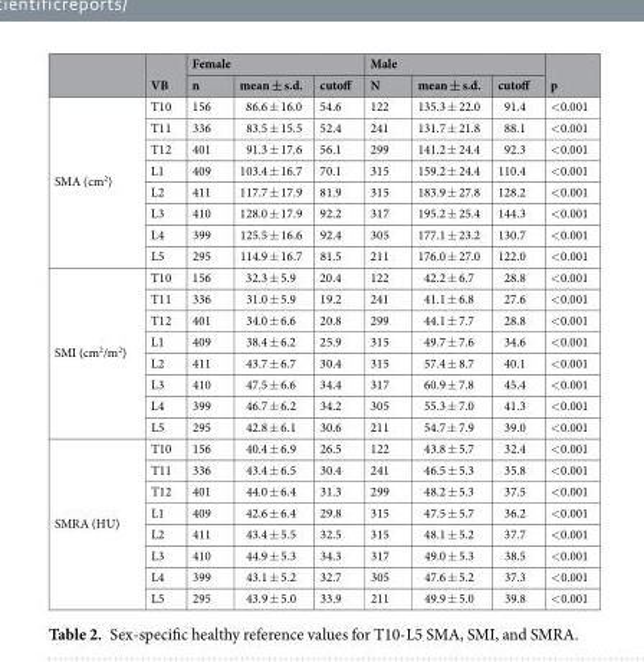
<table><thead><tr><td rowspan="2"></td><td rowspan="2">VB</td><td colspan="3">Female</td><td colspan="3">Male</td><td rowspan="2">p</td></tr><tr><td>n</td><td>mean ± s.d.</td><td>cutoff</td><td>N</td><td>mean ± s.d.</td><td>cutoff</td></tr></thead><tbody><tr><td rowspan="8">SMA (cm<sup>2</sup>)</td><td>T10</td><td>156</td><td>86.6 ± 16.0</td><td>54.6</td><td>122</td><td>135.3 ± 22.0</td><td>91.4</td><td>&lt;0.001</td></tr><tr><td>T11</td><td>336</td><td>83.5 ± 15.5</td><td>52.4</td><td>241</td><td>131.7 ± 21.8</td><td>88.1</td><td>&lt;0.001</td></tr><tr><td>T12</td><td>401</td><td>91.3 ± 17.6</td><td>56.1</td><td>299</td><td>141.2 ± 24.4</td><td>92.3</td><td>&lt;0.001</td></tr><tr><td>L1</td><td>409</td><td>103.4 ± 16.7</td><td>70.1</td><td>315</td><td>159.2 ± 24.4</td><td>110.4</td><td>&lt;0.001</td></tr><tr><td>L2</td><td>411</td><td>117.7 ± 17.9</td><td>81.9</td><td>315</td><td>183.9 ± 27.8</td><td>128.2</td><td>&lt;0.001</td></tr><tr><td>L3</td><td>410</td><td>128.0 ± 17.9</td><td>92.2</td><td>317</td><td>195.2 ± 25.4</td><td>144.3</td><td>&lt;0.001</td></tr><tr><td>L4</td><td>399</td><td>125.5 ± 16.6</td><td>92.4</td><td>305</td><td>177.1 ± 23.2</td><td>130.7</td><td>&lt;0.001</td></tr><tr><td>L5</td><td>295</td><td>114.9 ± 16.7</td><td>81.5</td><td>211</td><td>176.0 ± 27.0</td><td>122.0</td><td>&lt;0.001</td></tr><tr><td rowspan="8">SMI (cm<sup>2</sup>/m<sup>2</sup>)</td><td>T10</td><td>156</td><td>32.3 ± 5.9</td><td>20.4</td><td>122</td><td>42.2 ± 6.7</td><td>28.8</td><td>&lt;0.001</td></tr><tr><td>T11</td><td>336</td><td>31.0 ± 5.9</td><td>19.2</td><td>241</td><td>41.1 ± 6.8</td><td>27.6</td><td>&lt;0.001</td></tr><tr><td>T12</td><td>401</td><td>34.0 ± 6.6</td><td>20.8</td><td>299</td><td>44.1 ± 7.7</td><td>28.8</td><td>&lt;0.001</td></tr><tr><td>L1</td><td>409</td><td>38.4 ± 6.2</td><td>25.9</td><td>315</td><td>49.7 ± 7.6</td><td>34.6</td><td>&lt;0.001</td></tr><tr><td>L2</td><td>411</td><td>43.7 ± 6.7</td><td>30.4</td><td>315</td><td>57.4 ± 8.7</td><td>40.1</td><td>&lt;0.001</td></tr><tr><td>L3</td><td>410</td><td>47.5 ± 6.6</td><td>34.4</td><td>317</td><td>60.9 ± 7.8</td><td>45.4</td><td>&lt;0.001</td></tr><tr><td>L4</td><td>399</td><td>46.7 ± 6.2</td><td>34.2</td><td>305</td><td>55.3 ± 7.0</td><td>41.3</td><td>&lt;0.001</td></tr><tr><td>L5</td><td>295</td><td>42.8 ± 6.1</td><td>30.6</td><td>211</td><td>54.7 ± 7.9</td><td>39.0</td><td>&lt;0.001</td></tr><tr><td rowspan="8">SMRA (HU)</td><td>T10</td><td>156</td><td>40.4 ± 6.9</td><td>26.5</td><td>122</td><td>43.8 ± 5.7</td><td>32.4</td><td>&lt;0.001</td></tr><tr><td>T11</td><td>336</td><td>43.4 ± 6.5</td><td>30.4</td><td>241</td><td>46.5 ± 5.3</td><td>35.8</td><td>&lt;0.001</td></tr><tr><td>T12</td><td>401</td><td>44.0 ± 6.4</td><td>31.3</td><td>299</td><td>48.2 ± 5.3</td><td>37.5</td><td>&lt;0.001</td></tr><tr><td>L1</td><td>409</td><td>42.6 ± 6.4</td><td>29.8</td><td>315</td><td>47.5 ± 5.7</td><td>36.2</td><td>&lt;0.001</td></tr><tr><td>L2</td><td>411</td><td>43.4 ± 5.5</td><td>32.5</td><td>315</td><td>48.1 ± 5.2</td><td>37.7</td><td>&lt;0.001</td></tr><tr><td>L3</td><td>410</td><td>44.9 ± 5.3</td><td>34.3</td><td>317</td><td>49.0 ± 5.3</td><td>38.5</td><td>&lt;0.001</td></tr><tr><td>L4</td><td>399</td><td>43.1 ± 5.2</td><td>32.7</td><td>305</td><td>47.6 ± 5.2</td><td>37.3</td><td>&lt;0.001</td></tr><tr><td>L5</td><td>295</td><td>43.9 ± 5.0</td><td>33.9</td><td>211</td><td>49.9 ± 5.0</td><td>39.8</td><td>&lt;0.001</td></tr></tbody></table>